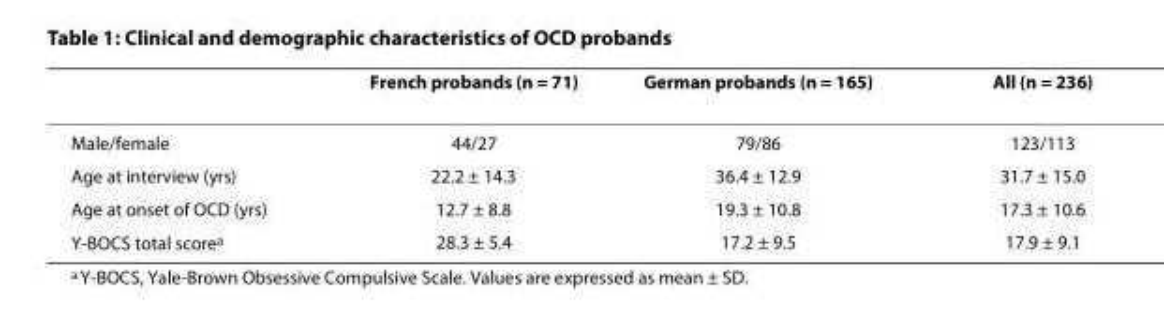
<table><thead><tr><td></td><td>French probands (n = 71)</td><td>German probands (n = 165)</td><td>All (n = 236)</td></tr></thead><tbody><tr><td>Male/female</td><td>44/27</td><td>79/86</td><td>123/113</td></tr><tr><td>Age at interview (yrs)</td><td>22.2 ± 14.3</td><td>36.4 ± 12.9</td><td>31.7 ± 15.0</td></tr><tr><td>Age at onset of OCD (yrs)</td><td>12.7 ± 8.8</td><td>19.3 ± 10.8</td><td>17.3 ± 10.6</td></tr><tr><td>Y-BOCS total score<sup>a</sup></td><td>28.3 ± 5.4</td><td>17.2 ± 9.5</td><td>17.9 ± 9.1</td></tr></tbody></table>